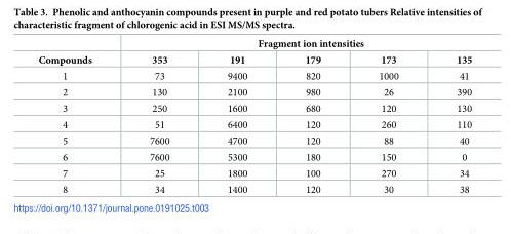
<table><thead><tr><td rowspan="2">Compounds</td><td colspan="5">Fragment ion intensities</td></tr><tr><td>353</td><td>191</td><td>179</td><td>173</td><td>135</td></tr></thead><tbody><tr><td>1</td><td>73</td><td>9400</td><td>820</td><td>1000</td><td>41</td></tr><tr><td>2</td><td>130</td><td>2100</td><td>980</td><td>26</td><td>390</td></tr><tr><td>3</td><td>250</td><td>1600</td><td>680</td><td>120</td><td>130</td></tr><tr><td>4</td><td>51</td><td>6400</td><td>120</td><td>260</td><td>110</td></tr><tr><td>5</td><td>7600</td><td>4700</td><td>120</td><td>88</td><td>40</td></tr><tr><td>6</td><td>7600</td><td>5300</td><td>180</td><td>150</td><td>0</td></tr><tr><td>7</td><td>25</td><td>1800</td><td>100</td><td>270</td><td>34</td></tr><tr><td>8</td><td>34</td><td>1400</td><td>120</td><td>30</td><td>38</td></tr></tbody></table>